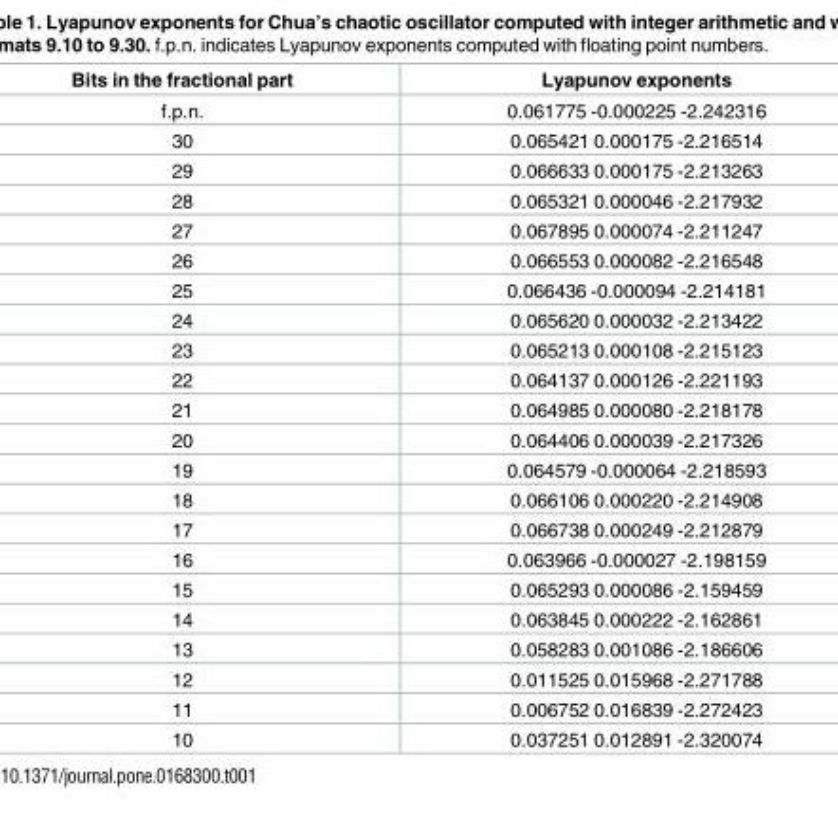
<table><thead><tr><td>Bits in the fractional part</td><td>Lyapunov exponents</td></tr></thead><tbody><tr><td>f.p.n.</td><td>0.061775 -0.000225 -2.242316</td></tr><tr><td>30</td><td>0.065421 0.000175 -2.216514</td></tr><tr><td>29</td><td>0.066633 0.000175 -2.213263</td></tr><tr><td>28</td><td>0.065321 0.000046 -2.217932</td></tr><tr><td>27</td><td>0.067895 0.000074 -2.211247</td></tr><tr><td>26</td><td>0.066553 0.000082 -2.216548</td></tr><tr><td>25</td><td>0.066436 -0.000094 -2.214181</td></tr><tr><td>24</td><td>0.065620 0.000032 -2.213422</td></tr><tr><td>23</td><td>0.065213 0.000108 -2.215123</td></tr><tr><td>22</td><td>0.064137 0.000126 -2.221193</td></tr><tr><td>21</td><td>0.064985 0.000080 -2.218178</td></tr><tr><td>20</td><td>0.064406 0.000039 -2.217326</td></tr><tr><td>19</td><td>0.064579 -0.000064 -2.218593</td></tr><tr><td>18</td><td>0.066106 0.000220 -2.214908</td></tr><tr><td>17</td><td>0.066738 0.000249 -2.212879</td></tr><tr><td>16</td><td>0.063966 -0.000027 -2.198159</td></tr><tr><td>15</td><td>0.065293 0.000086 -2.159459</td></tr><tr><td>14</td><td>0.063845 0.000222 -2.162861</td></tr><tr><td>13</td><td>0.058283 0.001086 -2.186606</td></tr><tr><td>12</td><td>0.011525 0.015968 -2.271788</td></tr><tr><td>11</td><td>0.006752 0.016839 -2.272423</td></tr><tr><td>10</td><td>0.037251 0.012891 -2.320074</td></tr></tbody></table>